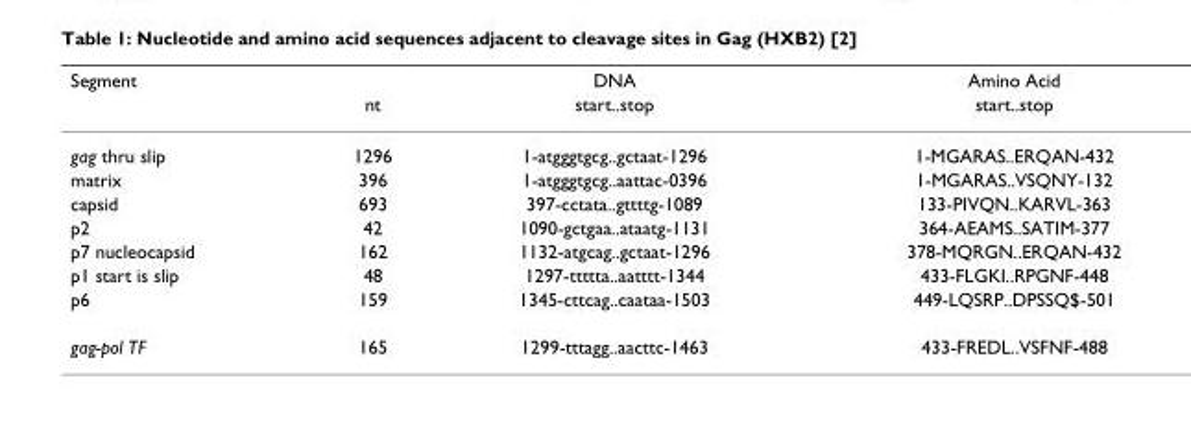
<table><thead><tr><td rowspan="2">Segment</td><td rowspan="2">nt</td><td rowspan="2">DNA start..stop</td><td rowspan="2">Amino Acid start..stop</td></tr><tr></tr></thead><tbody><tr><td>gag thru slip</td><td>1296</td><td>1-atgggtgcg..gctaat-1296</td><td>1-MGARAS..ERQAN-432</td></tr><tr><td>matrix</td><td>396</td><td>1-atgggtgcg..aattac-0396</td><td>1-MGARAS..VSQNY-132</td></tr><tr><td>capsid</td><td>693</td><td>397-cctata..gttttg-1089</td><td>133-PIVQN..KARVL-363</td></tr><tr><td>p2</td><td>42</td><td>1090-gctgaa..ataatg-1131</td><td>364-AEAMS..SATIM-377</td></tr><tr><td>p7 nucleocapsid</td><td>162</td><td>1132-atgcag..gctaat-1296</td><td>378-MQRGN..ERQAN-432</td></tr><tr><td>p1 start is slip</td><td>48</td><td>1297-ttttta..aatttt-1344</td><td>433-FLGKI..RPGNF-448</td></tr><tr><td>p6</td><td>159</td><td>1345-cttcag..caataa-1503</td><td>449-LQSRP..DPSSQ$-501</td></tr><tr><td>gag-pol TF</td><td>165</td><td>1299-tttagg..aacttc-1463</td><td>433-FREDL..VSFNF-488</td></tr></tbody></table>